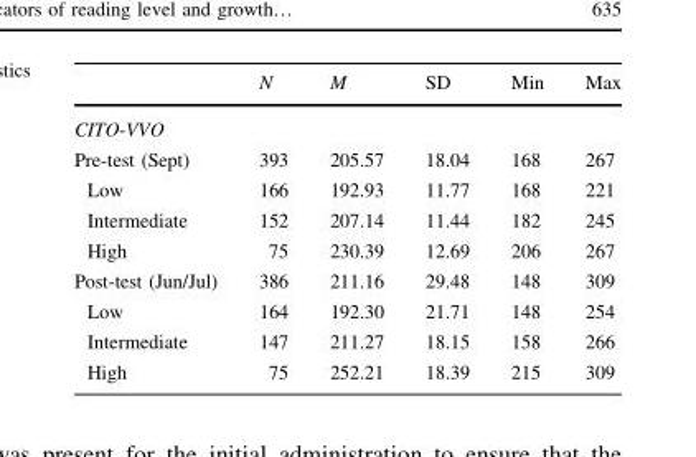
<table><thead><tr><td></td><td>N</td><td>M</td><td>SD</td><td>Min</td><td>Max</td></tr></thead><tbody><tr><td colspan="6">CITO-VVO</td></tr><tr><td>Pre-test (Sept)</td><td>393</td><td>205.57</td><td>18.04</td><td>168</td><td>267</td></tr><tr><td>Low</td><td>166</td><td>192.93</td><td>11.77</td><td>168</td><td>221</td></tr><tr><td>Intermediate</td><td>152</td><td>207.14</td><td>11.44</td><td>182</td><td>245</td></tr><tr><td>High</td><td>75</td><td>230.39</td><td>12.69</td><td>206</td><td>267</td></tr><tr><td>Post-test (Jun/Jul)</td><td>386</td><td>211.16</td><td>29.48</td><td>148</td><td>309</td></tr><tr><td>Low</td><td>164</td><td>192.30</td><td>21.71</td><td>148</td><td>254</td></tr><tr><td>Intermediate</td><td>147</td><td>211.27</td><td>18.15</td><td>158</td><td>266</td></tr><tr><td>High</td><td>75</td><td>252.21</td><td>18.39</td><td>215</td><td>309</td></tr></tbody></table>